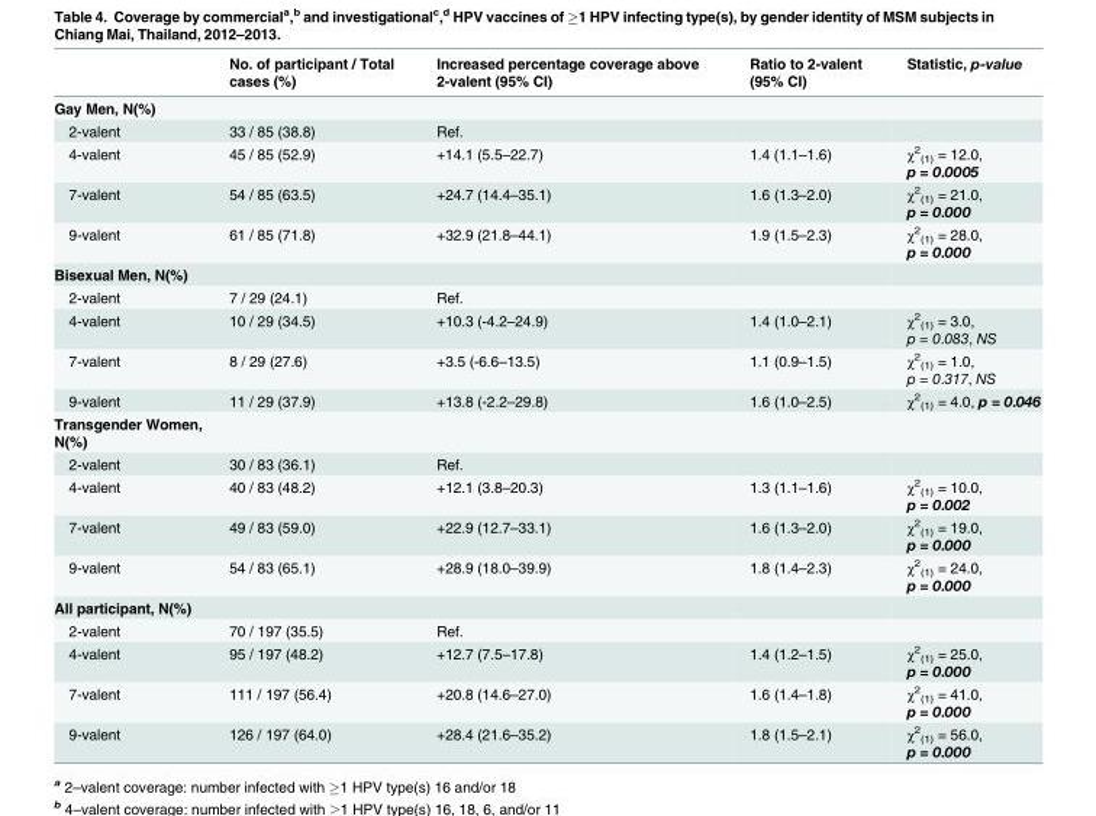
<table><thead><tr><td></td><td>No. of participant / Total cases (%)</td><td>Increased percentage coverage above 2-valent (95% CI)</td><td>Ratio to 2-valent (95% CI)</td><td>Statistic, p-value</td></tr></thead><tbody><tr><td colspan="5">Gay Men, N(%)</td></tr><tr><td>2-valent</td><td>33 / 85 (38.8)</td><td>Ref.</td><td></td><td></td></tr><tr><td>4-valent</td><td>45 / 85 (52.9)</td><td>+14.1 (5.5–22.7)</td><td>1.4 (1.1–1.6)</td><td>χ<sup>2</sup> <sub>(1)</sub> = 12.0, p = 0.0005</td></tr><tr><td>7-valent</td><td>54 / 85 (63.5)</td><td>+24.7 (14.4–35.1)</td><td>1.6 (1.3–2.0)</td><td>χ<sup>2</sup> <sub>(1)</sub> = 21.0, p = 0.000</td></tr><tr><td>9-valent</td><td>61 / 85 (71.8)</td><td>+32.9 (21.8–44.1)</td><td>1.9 (1.5–2.3)</td><td>χ<sup>2</sup> <sub>(1)</sub> = 28.0, p = 0.000</td></tr><tr><td colspan="5">Bisexual Men, N(%)</td></tr><tr><td>2-valent</td><td>7 / 29 (24.1)</td><td>Ref.</td><td></td><td></td></tr><tr><td>4-valent</td><td>10 / 29 (34.5)</td><td>+10.3 (-4.2–24.9)</td><td>1.4 (1.0–2.1)</td><td>χ<sup>2</sup> <sub>(1)</sub> = 3.0, p = 0.083, NS</td></tr><tr><td>7-valent</td><td>8 / 29 (27.6)</td><td>+3.5 (-6.6–13.5)</td><td>1.1 (0.9–1.5)</td><td>χ<sup>2</sup> <sub>(1)</sub> = 1.0, p = 0.317, NS</td></tr><tr><td>9-valent</td><td>11 / 29 (37.9)</td><td>+13.8 (-2.2–29.8)</td><td>1.6 (1.0–2.5)</td><td>χ<sup>2</sup> <sub>(1)</sub> = 4.0, p = 0.046</td></tr><tr><td colspan="5">Transgender Women, N(%)</td></tr><tr><td>2-valent</td><td>30 / 83 (36.1)</td><td>Ref.</td><td></td><td></td></tr><tr><td>4-valent</td><td>40 / 83 (48.2)</td><td>+12.1 (3.8–20.3)</td><td>1.3 (1.1–1.6)</td><td>χ<sup>2</sup> <sub>(1)</sub> = 10.0, p = 0.002</td></tr><tr><td>7-valent</td><td>49 / 83 (59.0)</td><td>+22.9 (12.7–33.1)</td><td>1.6 (1.3–2.0)</td><td>χ<sup>2</sup> <sub>(1)</sub> = 19.0, p = 0.000</td></tr><tr><td>9-valent</td><td>54 / 83 (65.1)</td><td>+28.9 (18.0–39.9)</td><td>1.8 (1.4–2.3)</td><td>χ<sup>2</sup> <sub>(1)</sub> = 24.0, p = 0.000</td></tr><tr><td colspan="5">All participant, N(%)</td></tr><tr><td>2-valent</td><td>70 / 197 (35.5)</td><td>Ref.</td><td></td><td></td></tr><tr><td>4-valent</td><td>95 / 197 (48.2)</td><td>+12.7 (7.5–17.8)</td><td>1.4 (1.2–1.5)</td><td>χ<sup>2</sup> <sub>(1)</sub> = 25.0, p = 0.000</td></tr><tr><td>7-valent</td><td>111 / 197 (56.4)</td><td>+20.8 (14.6–27.0)</td><td>1.6 (1.4–1.8)</td><td>χ<sup>2</sup> <sub>(1)</sub> = 41.0, p = 0.000</td></tr><tr><td>9-valent</td><td>126 / 197 (64.0)</td><td>+28.4 (21.6–35.2)</td><td>1.8 (1.5–2.1)</td><td>χ<sup>2</sup> <sub>(1)</sub> = 56.0, p = 0.000</td></tr></tbody></table>